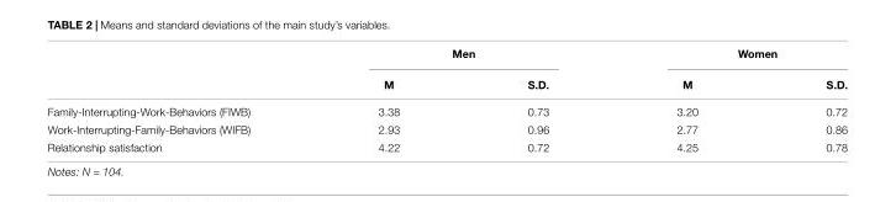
<table><thead><tr><td rowspan="2"></td><td colspan="2">Men</td><td colspan="2">Women</td></tr><tr><td>M</td><td>S.D.</td><td>M</td><td>S.D.</td></tr></thead><tbody><tr><td>Family-Interrupting-Work-Behaviors (FIWB)</td><td>3.38</td><td>0.73</td><td>3.20</td><td>0.72</td></tr><tr><td>Work-Interrupting-Family-Behaviors (WIFB)</td><td>2.93</td><td>0.96</td><td>2.77</td><td>0.86</td></tr><tr><td>Relationship satisfaction</td><td>4.22</td><td>0.72</td><td>4.25</td><td>0.78</td></tr></tbody></table>